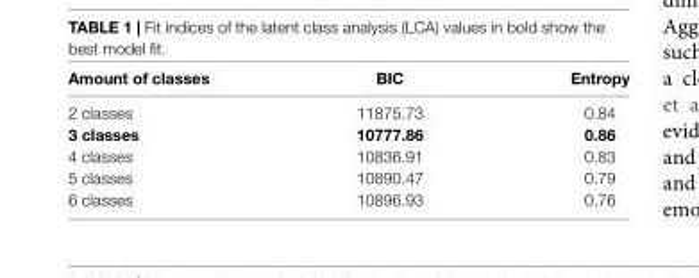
<table><thead><tr><td>Amount of classes</td><td>BIC</td><td>Entropy</td></tr></thead><tbody><tr><td>2 classes</td><td>11875.73</td><td>0.84</td></tr><tr><td>3 classes</td><td>10777.86</td><td>0.86</td></tr><tr><td>4 classes</td><td>10836.91</td><td>0.83</td></tr><tr><td>5 classes</td><td>10890.47</td><td>0.79</td></tr><tr><td>6 classes</td><td>10896.93</td><td>0.76</td></tr></tbody></table>